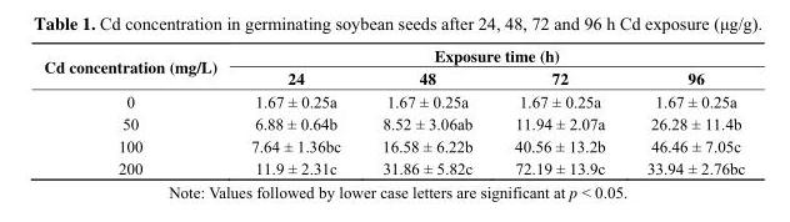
<table><thead><tr><td rowspan="2">Cd concentration (mg/L)</td><td colspan="4">Exposure time (h)</td></tr><tr><td>24</td><td>48</td><td>72</td><td>96</td></tr></thead><tbody><tr><td>0</td><td>1.67 ± 0.25a</td><td>1.67 ± 0.25a</td><td>1.67 ± 0.25a</td><td>1.67 ± 0.25a</td></tr><tr><td>50</td><td>6.88 ± 0.64b</td><td>8.52 ± 3.06ab</td><td>11.94 ± 2.07a</td><td>26.28 ± 11.4b</td></tr><tr><td>100</td><td>7.64 ± 1.36bc</td><td>16.58 ± 6.22b</td><td>40.56 ± 13.2b</td><td>46.46 ± 7.05c</td></tr><tr><td>200</td><td>11.9 ± 2.31c</td><td>31.86 ± 5.82c</td><td>72.19 ± 13.9c</td><td>33.94 ± 2.76bc</td></tr></tbody></table>